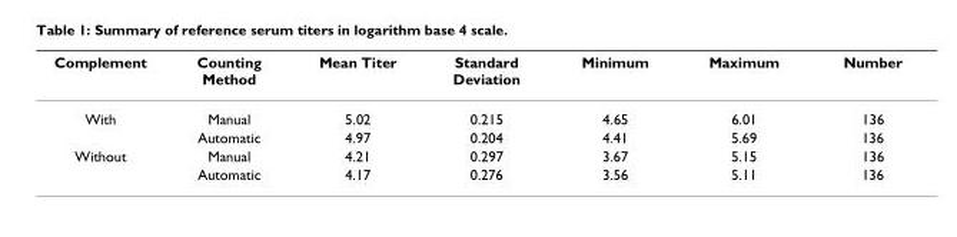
<table><thead><tr><td>Complement</td><td>Counting Method</td><td>Mean Titer</td><td>Standard Deviation</td><td>Minimum</td><td>Maximum</td><td>Number</td></tr></thead><tbody><tr><td rowspan="2">With</td><td>Manual</td><td>5.02</td><td>0.215</td><td>4.65</td><td>6.01</td><td>136</td></tr><tr><td>Automatic</td><td>4.97</td><td>0.204</td><td>4.41</td><td>5.69</td><td>136</td></tr><tr><td rowspan="2">Without</td><td>Manual</td><td>4.21</td><td>0.297</td><td>3.67</td><td>5.15</td><td>136</td></tr><tr><td>Automatic</td><td>4.17</td><td>0.276</td><td>3.56</td><td>5.11</td><td>136</td></tr></tbody></table>